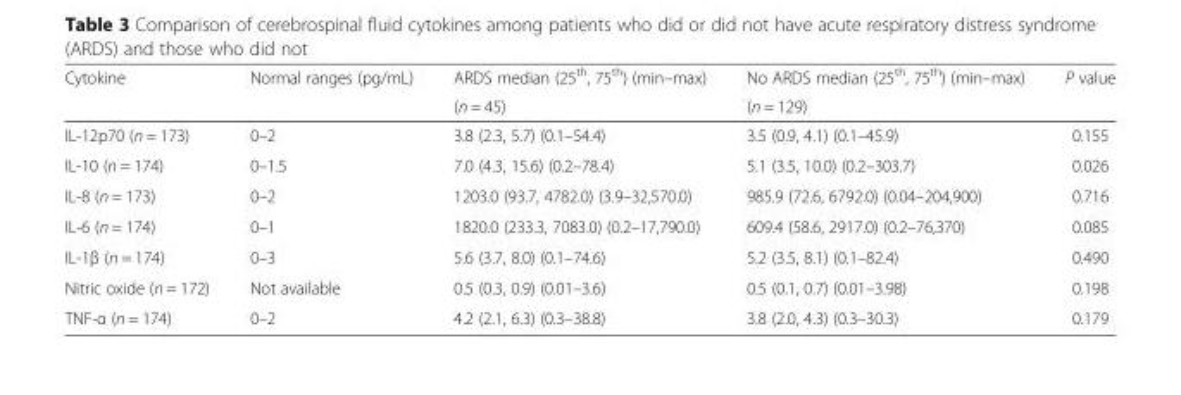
<table><thead><tr><td rowspan="2">Cytokine</td><td rowspan="2">Normal ranges (pg/mL)</td><td rowspan="2">ARDS median (25<sup>th</sup>, 75<sup>th</sup>) (min–max) (n = 45)</td><td rowspan="2">No ARDS median (25<sup>th</sup>, 75<sup>th</sup>) (min–max) (n = 129)</td><td rowspan="2">P value</td></tr><tr></tr></thead><tbody><tr><td>IL-12p70 (n = 173)</td><td>0–2</td><td>3.8 (2.3, 5.7) (0.1–54.4)</td><td>3.5 (0.9, 4.1) (0.1–45.9)</td><td>0.155</td></tr><tr><td>IL-10 (n = 174)</td><td>0–1.5</td><td>7.0 (4.3, 15.6) (0.2–78.4)</td><td>5.1 (3.5, 10.0) (0.2–303.7)</td><td>0.026</td></tr><tr><td>IL-8 (n = 173)</td><td>0–2</td><td>1203.0 (93.7, 4782.0) (3.9–32,570.0)</td><td>985.9 (72.6, 6792.0) (0.04–204,900)</td><td>0.716</td></tr><tr><td>IL-6 (n = 174)</td><td>0–1</td><td>1820.0 (233.3, 7083.0) (0.2–17,790.0)</td><td>609.4 (58.6, 2917.0) (0.2–76,370)</td><td>0.085</td></tr><tr><td>IL-1β (n = 174)</td><td>0–3</td><td>5.6 (3.7, 8.0) (0.1–74.6)</td><td>5.2 (3.5, 8.1) (0.1–82.4)</td><td>0.490</td></tr><tr><td>Nitric oxide (n = 172)</td><td>Not available</td><td>0.5 (0.3, 0.9) (0.01–3.6)</td><td>0.5 (0.1, 0.7) (0.01–3.98)</td><td>0.198</td></tr><tr><td>TNF-α (n = 174)</td><td>0–2</td><td>4.2 (2.1, 6.3) (0.3–38.8)</td><td>3.8 (2.0, 4.3) (0.3–30.3)</td><td>0.179</td></tr></tbody></table>